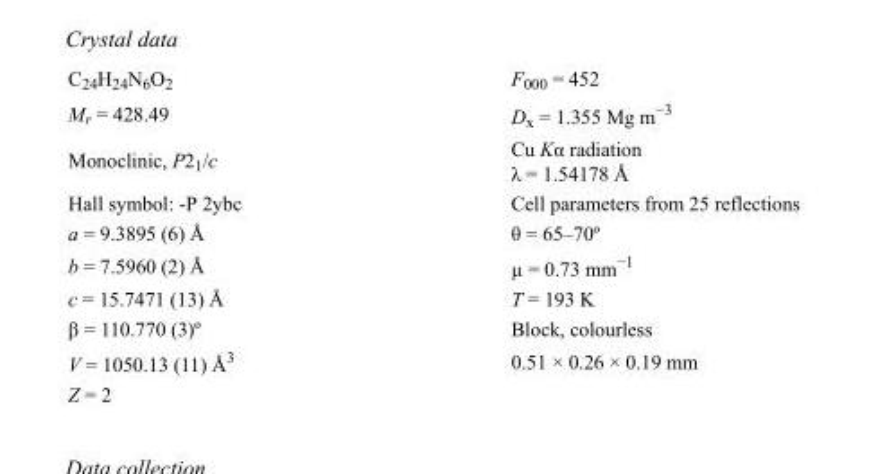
<table><tbody><tr><td>C<sub>24</sub>H<sub>24</sub>N<sub>6</sub>O<sub>2</sub></td><td>F000 = 452</td></tr><tr><td>M<sub>r</sub> = 428.49</td><td>D<sub>x</sub> = 1.355 Mg m<sup>−3</sup></td></tr><tr><td>Monoclinic, P2<sub>1</sub>/c</td><td>Cu Kα radiation λ = 1.54178 Å</td></tr><tr><td>Hall symbol: -P 2ybc</td><td>Cell parameters from 25 reflections</td></tr><tr><td>a = 9.3895 (6) Å</td><td>θ = 65–70º</td></tr><tr><td>b = 7.5960 (2) Å</td><td>µ = 0.73 mm<sup>−1</sup></td></tr><tr><td>c = 15.7471 (13) Å</td><td>T = 193 K</td></tr><tr><td>β = 110.770 (3)º</td><td>Block, colourless</td></tr><tr><td>V = 1050.13 (11) Å<sup>3</sup></td><td>0.51 × 0.26 × 0.19 mm</td></tr><tr><td>Z = 2</td><td></td></tr></tbody></table>